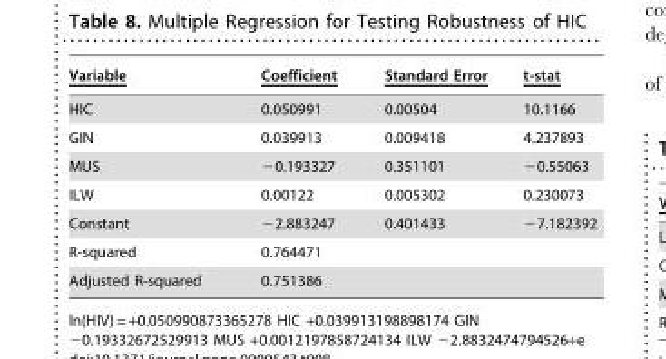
<table><thead><tr><td>Variable</td><td>Coefficient</td><td>Standard Error</td><td>t-stat</td></tr></thead><tbody><tr><td>HIC</td><td>0.050991</td><td>0.00504</td><td>10.1166</td></tr><tr><td>GIN</td><td>0.039913</td><td>0.009418</td><td>4.237893</td></tr><tr><td>MUS</td><td>−0.193327</td><td>0.351101</td><td>−0.55063</td></tr><tr><td>ILW</td><td>0.00122</td><td>0.005302</td><td>0.230073</td></tr><tr><td>Constant</td><td>−2.883247</td><td>0.401433</td><td>−7.182392</td></tr><tr><td>R-squared</td><td>0.764471</td><td></td><td></td></tr><tr><td>Adjusted R-squared</td><td>0.751386</td><td></td><td></td></tr></tbody></table>